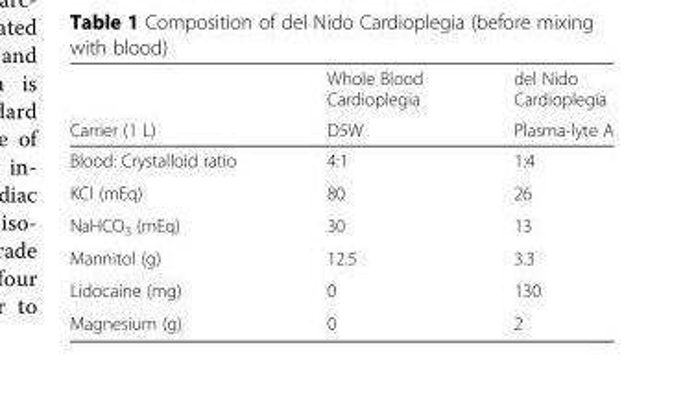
<table><thead><tr><td rowspan="2">Carrier (1 L)</td><td rowspan="2">Whole Blood Cardioplegia D5W</td><td rowspan="2">del Nido Cardioplegia Plasma-lyte A</td></tr><tr></tr></thead><tbody><tr><td>Blood: Crystalloid ratio</td><td>4:1</td><td>1:4</td></tr><tr><td>KCl (mEq)</td><td>80</td><td>26</td></tr><tr><td>NaHCO<sub>3</sub> (mEq)</td><td>30</td><td>13</td></tr><tr><td>Mannitol (g)</td><td>12.5</td><td>3.3</td></tr><tr><td>Lidocaine (mg)</td><td>0</td><td>130</td></tr><tr><td>Magnesium (g)</td><td>0</td><td>2</td></tr></tbody></table>